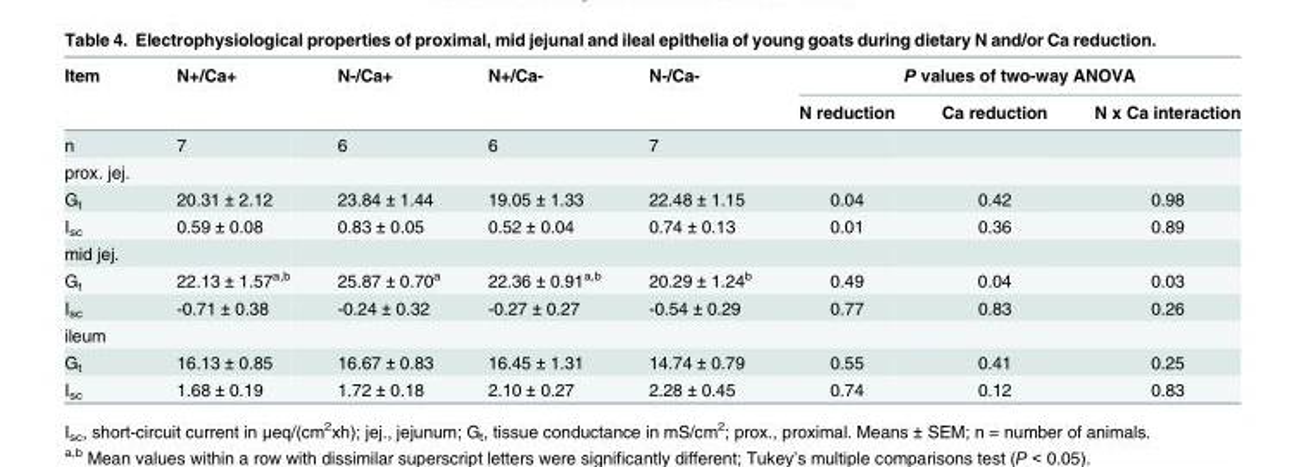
<table><thead><tr><td rowspan="2">Item</td><td rowspan="2">N+/Ca+</td><td rowspan="2">N-/Ca+</td><td rowspan="2">N+/Ca-</td><td rowspan="2">N-/Ca-</td><td colspan="3">P values of two-way ANOVA</td></tr><tr><td>N reduction</td><td>Ca reduction</td><td>N x Ca interaction</td></tr></thead><tbody><tr><td>n</td><td>7</td><td>6</td><td>6</td><td>7</td><td></td><td></td><td></td></tr><tr><td colspan="8">prox. jej.</td></tr><tr><td>G<sub>t</sub></td><td>20.31 ± 2.12</td><td>23.84 ± 1.44</td><td>19.05 ± 1.33</td><td>22.48 ± 1.15</td><td>0.04</td><td>0.42</td><td>0.98</td></tr><tr><td>I<sub>sc</sub></td><td>0.59 ± 0.08</td><td>0.83 ± 0.05</td><td>0.52 ± 0.04</td><td>0.74 ± 0.13</td><td>0.01</td><td>0.36</td><td>0.89</td></tr><tr><td colspan="8">mid jej.</td></tr><tr><td>G<sub>t</sub></td><td>22.13 ± 1.57<sup>a,b</sup></td><td>25.87 ± 0.70<sup>a</sup></td><td>22.36 ± 0.91<sup>a,b</sup></td><td>20.29 ± 1.24<sup>b</sup></td><td>0.49</td><td>0.04</td><td>0.03</td></tr><tr><td>I<sub>sc</sub></td><td>-0.71 ± 0.38</td><td>-0.24 ± 0.32</td><td>-0.27 ± 0.27</td><td>-0.54 ± 0.29</td><td>0.77</td><td>0.83</td><td>0.26</td></tr><tr><td colspan="8">ileum</td></tr><tr><td>G<sub>t</sub></td><td>16.13 ± 0.85</td><td>16.67 ± 0.83</td><td>16.45 ± 1.31</td><td>14.74 ± 0.79</td><td>0.55</td><td>0.41</td><td>0.25</td></tr><tr><td>I<sub>sc</sub></td><td>1.68 ± 0.19</td><td>1.72 ± 0.18</td><td>2.10 ± 0.27</td><td>2.28 ± 0.45</td><td>0.74</td><td>0.12</td><td>0.83</td></tr></tbody></table>